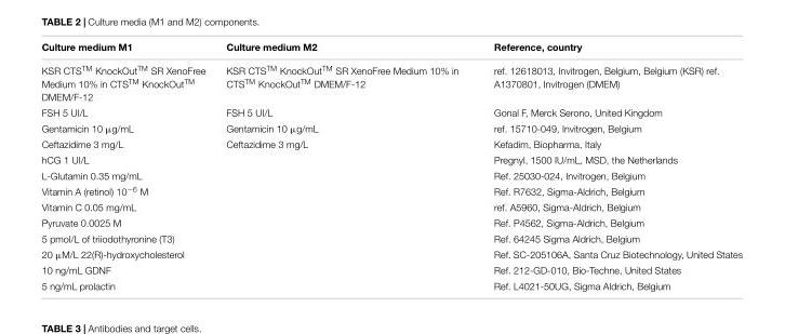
<table><thead><tr><td>Culture medium M1</td><td>Culture medium M2</td><td>Reference, country</td></tr></thead><tbody><tr><td>KSR CTS<sup>TM</sup> KnockOut<sup>TM</sup> SR XenoFree Medium 10% in CTS<sup>TM</sup> KnockOut<sup>TM</sup> DMEM/F-12</td><td>KSR CTS<sup>TM</sup> KnockOut<sup>TM</sup> SR XenoFree Medium 10% in CTS<sup>TM</sup> KnockOut<sup>TM</sup> DMEM/F-12</td><td>ref. 12618013, Invitrogen, Belgium, Belgium (KSR) ref. A1370801, Invitrogen (DMEM)</td></tr><tr><td>FSH 5 UI/L</td><td>FSH 5 UI/L</td><td>Gonal F, Merck Serono, United Kingdom</td></tr><tr><td>Gentamicin 10 µg/mL</td><td>Gentamicin 10 µg/mL</td><td>ref. 15710-049, Invitrogen, Belgium</td></tr><tr><td>Ceftazidime 3 mg/L</td><td>Ceftazidime 3 mg/L</td><td>Kefadim, Biopharma, Italy</td></tr><tr><td>hCG 1 UI/L</td><td></td><td>Pregnyl, 1500 IU/mL, MSD, the Netherlands</td></tr><tr><td>L-Glutamin 0.35 mg/mL</td><td></td><td>Ref. 25030-024, Invitrogen, Belgium</td></tr><tr><td>Vitamin A (retinol) 10<sup>−6</sup> M</td><td></td><td>Ref. R7632, Sigma-Aldrich, Belgium</td></tr><tr><td>Vitamin C 0.05 mg/mL</td><td></td><td>ref. A5960, Sigma-Aldrich, Belgium</td></tr><tr><td>Pyruvate 0.0025 M</td><td></td><td>Ref. P4562, Sigma-Aldrich, Belgium</td></tr><tr><td>5 pmol/L of triiodothyronine (T3)</td><td></td><td>Ref. 64245 Sigma Aldrich, Belgium</td></tr><tr><td>20 µM/L 22(R)-hydroxycholesterol</td><td></td><td>Ref. SC-205106A, Santa Cruz Biotechnology, United States</td></tr><tr><td>10 ng/mL GDNF</td><td></td><td>Ref. 212-GD-010, Bio-Techne, United States</td></tr><tr><td>5 ng/mL prolactin</td><td></td><td>Ref. L4021-50UG, Sigma Aldrich, Belgium</td></tr></tbody></table>